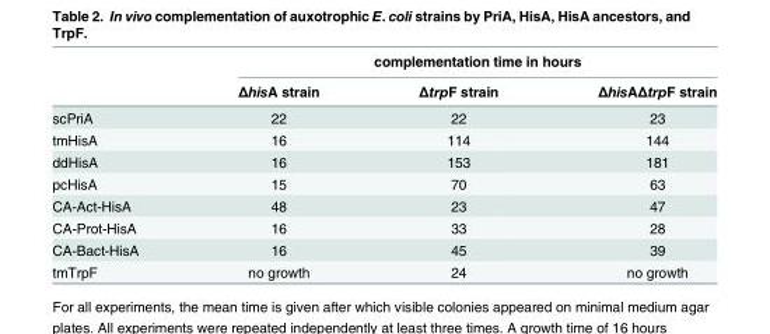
<table><thead><tr><td rowspan="2"></td><td colspan="3">complementation time in hours</td></tr><tr><td>ΔhisA strain</td><td>ΔtrpF strain</td><td>ΔhisAΔtrpF strain</td></tr></thead><tbody><tr><td>scPriA</td><td>22</td><td>22</td><td>23</td></tr><tr><td>tmHisA</td><td>16</td><td>114</td><td>144</td></tr><tr><td>ddHisA</td><td>16</td><td>153</td><td>181</td></tr><tr><td>pcHisA</td><td>15</td><td>70</td><td>63</td></tr><tr><td>CA-Act-HisA</td><td>48</td><td>23</td><td>47</td></tr><tr><td>CA-Prot-HisA</td><td>16</td><td>33</td><td>28</td></tr><tr><td>CA-Bact-HisA</td><td>16</td><td>45</td><td>39</td></tr><tr><td>tmTrpF</td><td>no growth</td><td>24</td><td>no growth</td></tr></tbody></table>